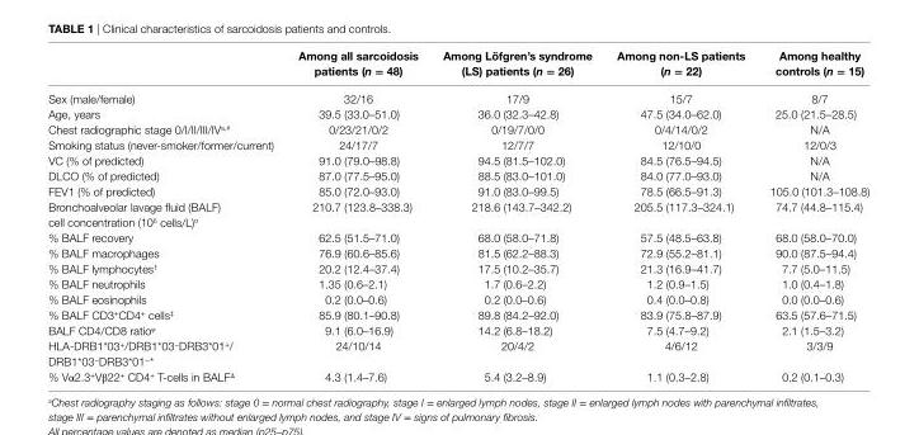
<table><thead><tr><td></td><td>among all sarcoidosis patients (n = 48)</td><td>among löfgren’s syndrome (ls) patients (n = 26)</td><td>among non-ls patients (n = 22)</td><td>among healthy controls (n = 15)</td></tr></thead><tbody><tr><td>Sex (male/female)</td><td>32/16</td><td>17/9</td><td>15/7</td><td>8/7</td></tr><tr><td>Age, years</td><td>39.5 (33.0–51.0)</td><td>36.0 (32.3–42.8)</td><td>47.5 (34.0–62.0)</td><td>25.0 (21.5–28.5)</td></tr><tr><td>Chest radiographic stage 0/I/II/III/IV<sup>a,#</sup></td><td>0/23/21/0/2</td><td>0/19/7/0/0</td><td>0/4/14/0/2</td><td>N/A</td></tr><tr><td>Smoking status (never-smoker/former/current)</td><td>24/17/7</td><td>12/7/7</td><td>12/10/0</td><td>12/0/3</td></tr><tr><td>VC (% of predicted)</td><td>91.0 (79.0–98.8)</td><td>94.5 (81.5–102.0)</td><td>84.5 (76.5–94.5)</td><td>N/A</td></tr><tr><td>DLCO (% of predicted)</td><td>87.0 (77.5–95.0)</td><td>88.5 (83.0–101.0)</td><td>84.0 (77.0–93.0)</td><td>N/A</td></tr><tr><td>FEV1 (% of predicted)</td><td>85.0 (72.0–93.0)</td><td>91.0 (83.0–99.5)</td><td>78.5 (66.5–91.3)</td><td>105.0 (101.3–108.8)</td></tr><tr><td>Bronchoalveolar lavage fluid (BALF) cell concentration (10<sup>6</sup> cells/L)<sup>¤</sup></td><td>210.7 (123.8–338.3)</td><td>218.6 (143.7–342.2)</td><td>205.5 (117.3–324.1)</td><td>74.7 (44.8–115.4)</td></tr><tr><td>% BALF recovery</td><td>62.5 (51.5–71.0)</td><td>68.0 (58.0–71.8)</td><td>57.5 (48.5–63.8)</td><td>68.0 (58.0–70.0)</td></tr><tr><td>% BALF macrophages</td><td>76.9 (60.6–85.6)</td><td>81.5 (62.2–88.3)</td><td>72.9 (55.2–81.1)</td><td>90.0 (87.5–94.4)</td></tr><tr><td>% BALF lymphocytes<sup>†</sup></td><td>20.2 (12.4–37.4)</td><td>17.5 (10.2–35.7)</td><td>21.3 (16.9–41.7)</td><td>7.7 (5.0–11.5)</td></tr><tr><td>% BALF neutrophils</td><td>1.35 (0.6–2.1)</td><td>1.7 (0.6–2.2)</td><td>1.2 (0.9–1.5)</td><td>1.0 (0.4–1.8)</td></tr><tr><td>% BALF eosinophils</td><td>0.2 (0.0–0.6)</td><td>0.2 (0.0–0.6)</td><td>0.4 (0.0–0.8)</td><td>0.0 (0.0–0.6)</td></tr><tr><td>% BALF CD3<sup>+</sup>CD4<sup>+</sup> cells<sup>‡</sup></td><td>85.9 (80.1–90.8)</td><td>89.8 (84.2–92.0)</td><td>83.9 (75.8–87.9)</td><td>63.5 (57.6–71.5)</td></tr><tr><td>BALF CD4/CD8 ratio<sup>φ</sup></td><td>9.1 (6.0–16.9)</td><td>14.2 (6.8–18.2)</td><td>7.5 (4.7–9.2)</td><td>2.1 (1.5–3.2)</td></tr><tr><td>HLA-DRB1*03<sup>+</sup>/DRB1*03<sup>−</sup>DRB3*01<sup>+</sup>/ DRB1*03<sup>−</sup>DRB3*01<sup>−</sup>*</td><td>24/10/14</td><td>20/4/2</td><td>4/6/12</td><td>3/3/9</td></tr><tr><td>% Vα2.3<sup>+</sup>Vβ22<sup>+</sup> CD4<sup>+</sup> T-cells in BALF<sup>Δ</sup></td><td>4.3 (1.4–7.6)</td><td>5.4 (3.2–8.9)</td><td>1.1 (0.3–2.8)</td><td>0.2 (0.1–0.3)</td></tr></tbody></table>